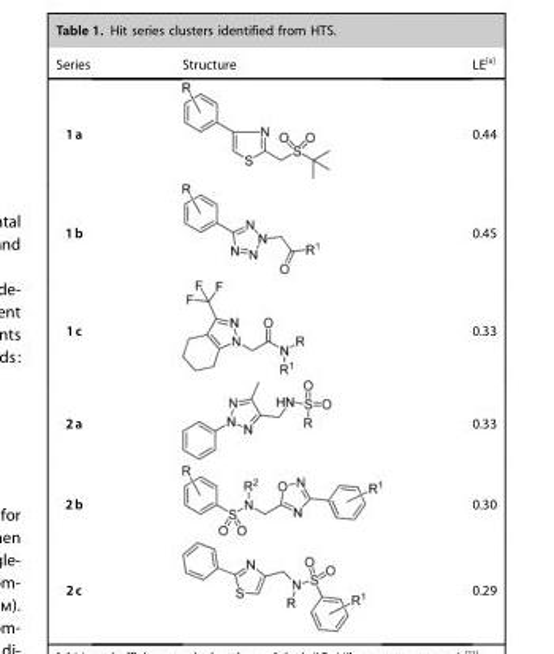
<table><thead><tr><td>Series</td><td>Structure</td><td>LE[a]</td></tr></thead><tbody><tr><td>1a</td><td></td><td>0.44</td></tr><tr><td>1b</td><td></td><td>0.45</td></tr><tr><td>1c</td><td></td><td>0.33</td></tr><tr><td>2a</td><td></td><td>0.33</td></tr><tr><td>2b</td><td></td><td>0.30</td></tr><tr><td>2c</td><td></td><td>0.29</td></tr></tbody></table>